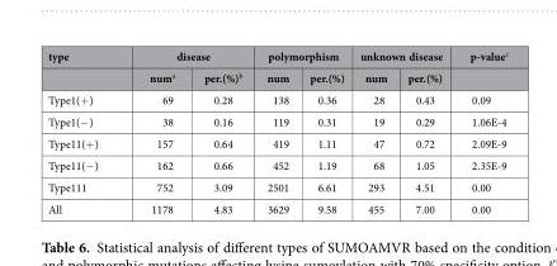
<table><thead><tr><td rowspan="2">type</td><td colspan="2">disease</td><td colspan="2">polymorphism</td><td colspan="2">unknown disease</td><td rowspan="2">p-value<sup>c</sup></td></tr><tr><td>num<sup>a</sup></td><td>per.(%)<sup>b</sup></td><td>num</td><td>per.(%)</td><td>num</td><td>per.(%)</td></tr></thead><tbody><tr><td>Type1(+ )</td><td>69</td><td>0.28</td><td>138</td><td>0.36</td><td>28</td><td>0.43</td><td>0.09</td></tr><tr><td>Type1(− )</td><td>38</td><td>0.16</td><td>119</td><td>0.31</td><td>19</td><td>0.29</td><td>1.06E-4</td></tr><tr><td>Type11(+ )</td><td>157</td><td>0.64</td><td>419</td><td>1.11</td><td>47</td><td>0.72</td><td>2.09E-9</td></tr><tr><td>Type11(− )</td><td>162</td><td>0.66</td><td>452</td><td>1.19</td><td>68</td><td>1.05</td><td>2.35E-9</td></tr><tr><td>Type111</td><td>752</td><td>3.09</td><td>2501</td><td>6.61</td><td>293</td><td>4.51</td><td>0.00</td></tr><tr><td>All</td><td>1178</td><td>4.83</td><td>3629</td><td>9.58</td><td>455</td><td>7.00</td><td>0.00</td></tr></tbody></table>